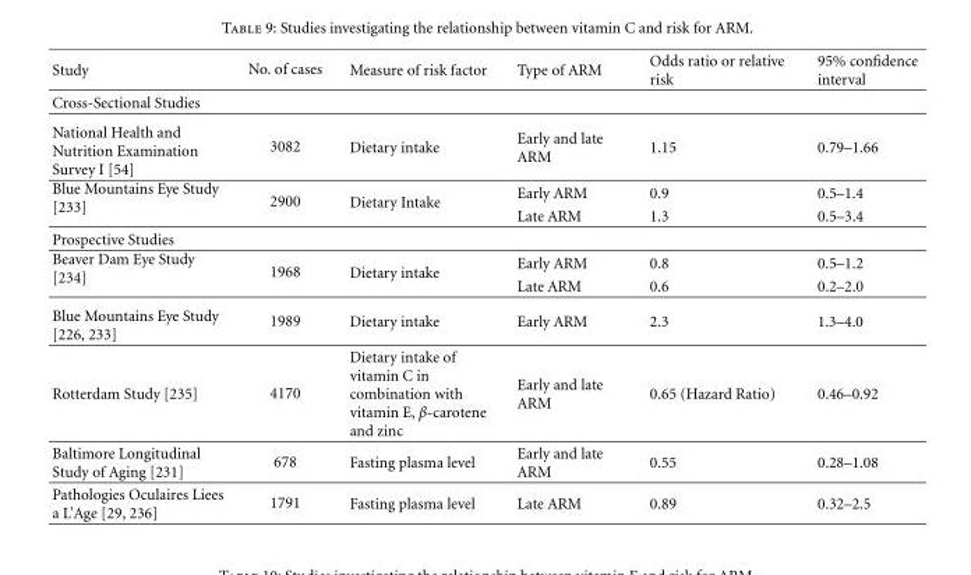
<table><thead><tr><td>Study</td><td>No. of cases</td><td>Measure of risk factor</td><td>Type of ARM</td><td>Odds ratio or relative risk</td><td>95% confidence interval</td></tr></thead><tbody><tr><td colspan="6">Cross-Sectional Studies</td></tr><tr><td>National Health and Nutrition Examination Survey I [54]</td><td>3082</td><td>Dietary intake</td><td>Early and late ARM</td><td>1.15</td><td>0.79–1.66</td></tr><tr><td rowspan="2">Blue Mountains Eye Study [233]</td><td rowspan="2">2900</td><td rowspan="2">Dietary Intake</td><td>Early ARM</td><td>0.9</td><td>0.5–1.4</td></tr><tr><td>Late ARM</td><td>1.3</td><td>0.5–3.4</td></tr><tr><td colspan="6">Prospective Studies</td></tr><tr><td rowspan="2">Beaver Dam Eye Study [234]</td><td rowspan="2">1968</td><td rowspan="2">Dietary intake</td><td>Early ARM</td><td>0.8</td><td>0.5–1.2</td></tr><tr><td>Late ARM</td><td>0.6</td><td>0.2–2.0</td></tr><tr><td>Blue Mountains Eye Study [226, 233]</td><td>1989</td><td>Dietary intake</td><td>Early ARM</td><td>2.3</td><td>1.3–4.0</td></tr><tr><td>Rotterdam Study [235]</td><td>4170</td><td>Dietary intake of vitamin C in combination with vitamin E, β-carotene and zinc</td><td>Early and late ARM</td><td>0.65 (Hazard Ratio)</td><td>0.46–0.92</td></tr><tr><td>Baltimore Longitudinal Study of Aging [231]</td><td>678</td><td>Fasting plasma level</td><td>Early and late ARM</td><td>0.55</td><td>0.28–1.08</td></tr><tr><td>Pathologies Oculaires Liees a L’Age [29, 236]</td><td>1791</td><td>Fasting plasma level</td><td>Late ARM</td><td>0.89</td><td>0.32–2.5</td></tr></tbody></table>